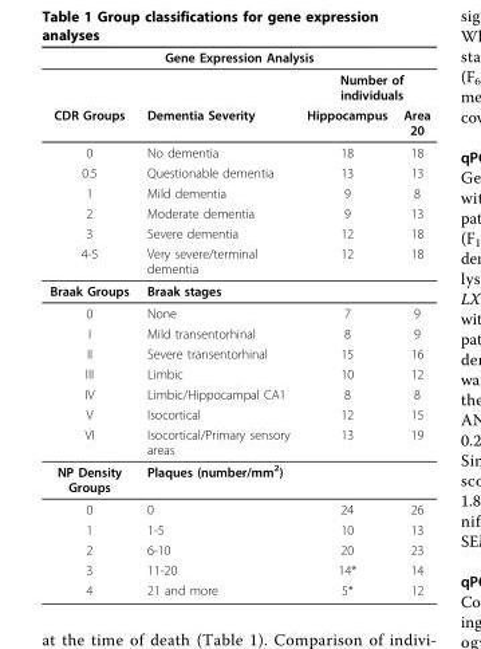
<table><thead><tr><td colspan="4">Gene Expression Analysis</td></tr><tr><td rowspan="2">CDR Groups</td><td rowspan="2">Dementia Severity</td><td colspan="2">Number of individuals</td></tr><tr><td>Hippocampus</td><td>Area 20</td></tr></thead><tbody><tr><td>0</td><td>No dementia</td><td>18</td><td>18</td></tr><tr><td>0.5</td><td>Questionable dementia</td><td>13</td><td>13</td></tr><tr><td>1</td><td>Mild dementia</td><td>9</td><td>8</td></tr><tr><td>2</td><td>Moderate dementia</td><td>9</td><td>13</td></tr><tr><td>3</td><td>Severe dementia</td><td>12</td><td>18</td></tr><tr><td>4-5</td><td>Very severe/terminal dementia</td><td>12</td><td>18</td></tr><tr><td>Braak Groups</td><td>Braak stages</td><td></td><td></td></tr><tr><td>0</td><td>None</td><td>7</td><td>9</td></tr><tr><td>I</td><td>Mild transentorhinal</td><td>8</td><td>9</td></tr><tr><td>II</td><td>Severe transentorhinal</td><td>15</td><td>16</td></tr><tr><td>III</td><td>Limbic</td><td>10</td><td>12</td></tr><tr><td>IV</td><td>Limbic/Hippocampal CA1</td><td>8</td><td>8</td></tr><tr><td>V</td><td>Isocortical</td><td>12</td><td>15</td></tr><tr><td>VI</td><td>Isocortical/Primary sensory areas</td><td>13</td><td>19</td></tr><tr><td>NP Density Groups</td><td>Plaques (number/mm<sup>2</sup>)</td><td></td><td></td></tr><tr><td>0</td><td>0</td><td>24</td><td>26</td></tr><tr><td>1</td><td>1-5</td><td>10</td><td>13</td></tr><tr><td>2</td><td>6-10</td><td>20</td><td>23</td></tr><tr><td>3</td><td>11-20</td><td>14*</td><td>14</td></tr><tr><td>4</td><td>21 and more</td><td>5*</td><td>12</td></tr></tbody></table>